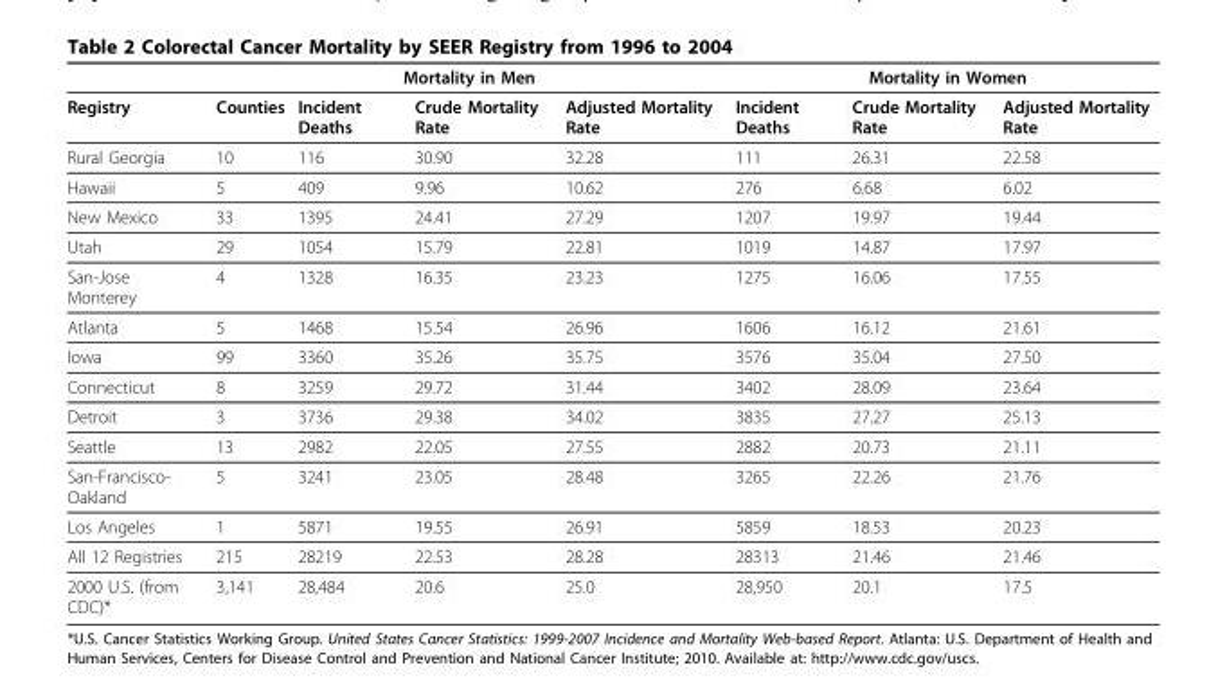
<table><thead><tr><td rowspan="2">Registry</td><td colspan="4">Mortality in Men</td><td colspan="3">Mortality in Women</td></tr><tr><td>Counties</td><td>Incident Deaths</td><td>Crude Mortality Rate</td><td>Adjusted Mortality Rate</td><td>Incident Deaths</td><td>Crude Mortality Rate</td><td>Adjusted Mortality Rate</td></tr></thead><tbody><tr><td>Rural Georgia</td><td>10</td><td>116</td><td>30.90</td><td>32.28</td><td>111</td><td>26.31</td><td>22.58</td></tr><tr><td>Hawaii</td><td>5</td><td>409</td><td>9.96</td><td>10.62</td><td>276</td><td>6.68</td><td>6.02</td></tr><tr><td>New Mexico</td><td>33</td><td>1395</td><td>24.41</td><td>27.29</td><td>1207</td><td>19.97</td><td>19.44</td></tr><tr><td>Utah</td><td>29</td><td>1054</td><td>15.79</td><td>22.81</td><td>1019</td><td>14.87</td><td>17.97</td></tr><tr><td>San-Jose Monterey</td><td>4</td><td>1328</td><td>16.35</td><td>23.23</td><td>1275</td><td>16.06</td><td>17.55</td></tr><tr><td>Atlanta</td><td>5</td><td>1468</td><td>15.54</td><td>26.96</td><td>1606</td><td>16.12</td><td>21.61</td></tr><tr><td>Iowa</td><td>99</td><td>3360</td><td>35.26</td><td>35.75</td><td>3576</td><td>35.04</td><td>27.50</td></tr><tr><td>Connecticut</td><td>8</td><td>3259</td><td>29.72</td><td>31.44</td><td>3402</td><td>28.09</td><td>23.64</td></tr><tr><td>Detroit</td><td>3</td><td>3736</td><td>29.38</td><td>34.02</td><td>3835</td><td>27.27</td><td>25.13</td></tr><tr><td>Seattle</td><td>13</td><td>2982</td><td>22.05</td><td>27.55</td><td>2882</td><td>20.73</td><td>21.11</td></tr><tr><td>San-Francisco- Oakland</td><td>5</td><td>3241</td><td>23.05</td><td>28.48</td><td>3265</td><td>22.26</td><td>21.76</td></tr><tr><td>Los Angeles</td><td>1</td><td>5871</td><td>19.55</td><td>26.91</td><td>5859</td><td>18.53</td><td>20.23</td></tr><tr><td>All 12 Registries</td><td>215</td><td>28219</td><td>22.53</td><td>28.28</td><td>28313</td><td>21.46</td><td>21.46</td></tr><tr><td>2000 U.S. (from CDC)*</td><td>3,141</td><td>28,484</td><td>20.6</td><td>25.0</td><td>28,950</td><td>20.1</td><td>17.5</td></tr></tbody></table>